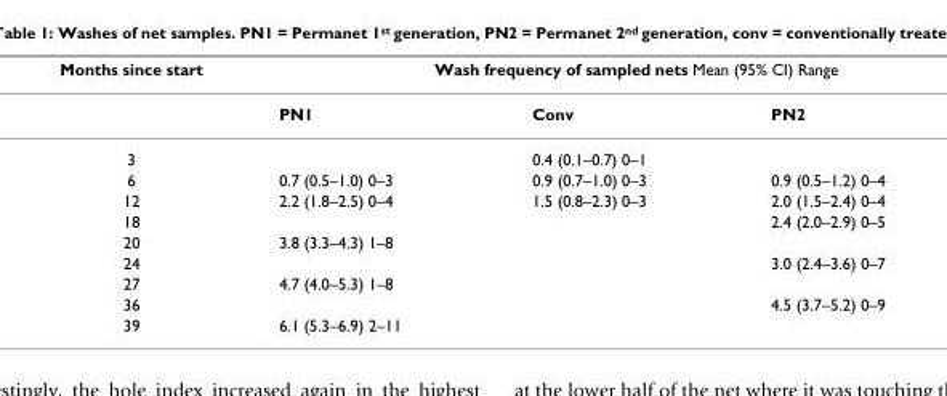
<table><thead><tr><td rowspan="2">Months since start</td><td colspan="3">Wash frequency of sampled nets Mean (95% CI) Range</td></tr><tr><td>PN1</td><td>Conv</td><td>PN2</td></tr></thead><tbody><tr><td>3</td><td></td><td>0.4 (0.1–0.7) 0–1</td><td></td></tr><tr><td>6</td><td>0.7 (0.5–1.0) 0–3</td><td>0.9 (0.7–1.0) 0–3</td><td>0.9 (0.5–1.2) 0–4</td></tr><tr><td>12</td><td>2.2 (1.8–2.5) 0–4</td><td>1.5 (0.8–2.3) 0–3</td><td>2.0 (1.5–2.4) 0–4</td></tr><tr><td>18</td><td></td><td></td><td>2.4 (2.0–2.9) 0–5</td></tr><tr><td>20</td><td>3.8 (3.3–4.3) 1–8</td><td></td><td></td></tr><tr><td>24</td><td></td><td></td><td>3.0 (2.4–3.6) 0–7</td></tr><tr><td>27</td><td>4.7 (4.0–5.3) 1–8</td><td></td><td></td></tr><tr><td>36</td><td></td><td></td><td>4.5 (3.7–5.2) 0–9</td></tr><tr><td>39</td><td>6.1 (5.3–6.9) 2–11</td><td></td><td></td></tr></tbody></table>